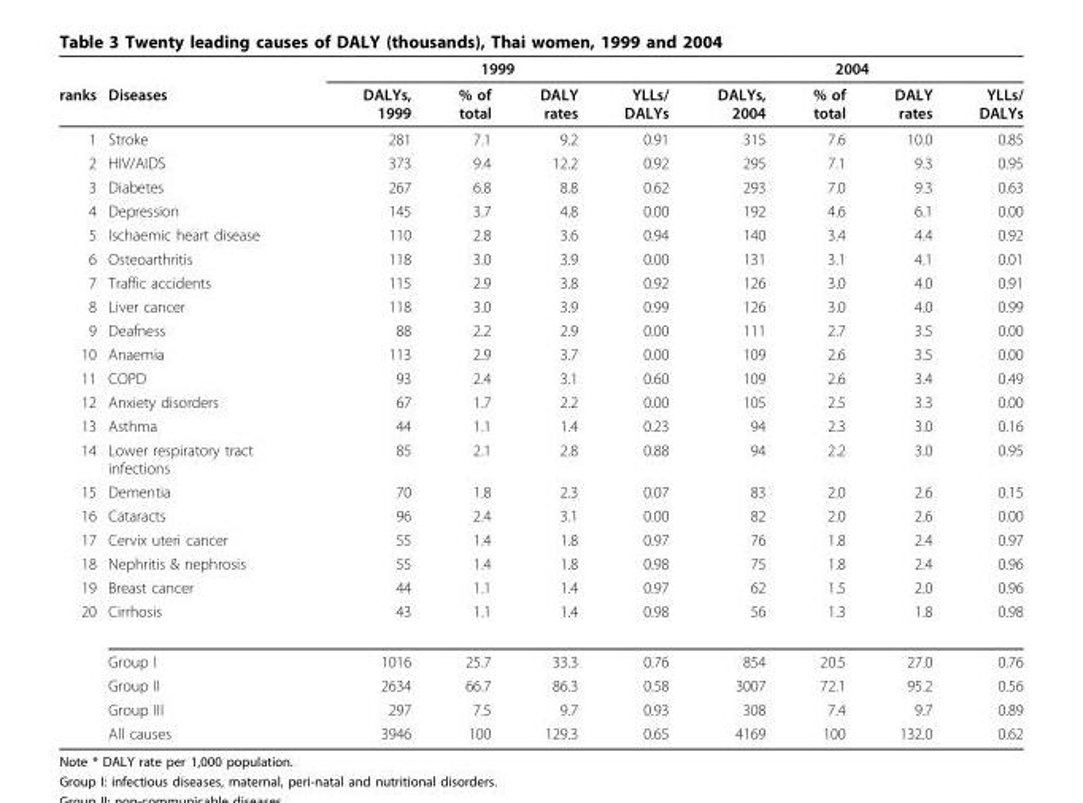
<table><thead><tr><td rowspan="2">ranks</td><td rowspan="2">Diseases</td><td colspan="4">1999</td><td colspan="4">2004</td></tr><tr><td>DALYs, 1999</td><td>% of total</td><td>DALY rates</td><td>YLLs/ DALYs</td><td>DALYs, 2004</td><td>% of total</td><td>DALY rates</td><td>YLLs/ DALYs</td></tr></thead><tbody><tr><td>1</td><td>Stroke</td><td>281</td><td>7.1</td><td>9.2</td><td>0.91</td><td>315</td><td>7.6</td><td>10.0</td><td>0.85</td></tr><tr><td>2</td><td>HIV/AIDS</td><td>373</td><td>9.4</td><td>12.2</td><td>0.92</td><td>295</td><td>7.1</td><td>9.3</td><td>0.95</td></tr><tr><td>3</td><td>Diabetes</td><td>267</td><td>6.8</td><td>8.8</td><td>0.62</td><td>293</td><td>7.0</td><td>9.3</td><td>0.63</td></tr><tr><td>4</td><td>Depression</td><td>145</td><td>3.7</td><td>4.8</td><td>0.00</td><td>192</td><td>4.6</td><td>6.1</td><td>0.00</td></tr><tr><td>5</td><td>Ischaemic heart disease</td><td>110</td><td>2.8</td><td>3.6</td><td>0.94</td><td>140</td><td>3.4</td><td>4.4</td><td>0.92</td></tr><tr><td>6</td><td>Osteoarthritis</td><td>118</td><td>3.0</td><td>3.9</td><td>0.00</td><td>131</td><td>3.1</td><td>4.1</td><td>0.01</td></tr><tr><td>7</td><td>Traffic accidents</td><td>115</td><td>2.9</td><td>3.8</td><td>0.92</td><td>126</td><td>3.0</td><td>4.0</td><td>0.91</td></tr><tr><td>8</td><td>Liver cancer</td><td>118</td><td>3.0</td><td>3.9</td><td>0.99</td><td>126</td><td>3.0</td><td>4.0</td><td>0.99</td></tr><tr><td>9</td><td>Deafness</td><td>88</td><td>2.2</td><td>2.9</td><td>0.00</td><td>111</td><td>2.7</td><td>3.5</td><td>0.00</td></tr><tr><td>10</td><td>Anaemia</td><td>113</td><td>2.9</td><td>3.7</td><td>0.00</td><td>109</td><td>2.6</td><td>3.5</td><td>0.00</td></tr><tr><td>11</td><td>COPD</td><td>93</td><td>2.4</td><td>3.1</td><td>0.60</td><td>109</td><td>2.6</td><td>3.4</td><td>0.49</td></tr><tr><td>12</td><td>Anxiety disorders</td><td>67</td><td>1.7</td><td>2.2</td><td>0.00</td><td>105</td><td>2.5</td><td>3.3</td><td>0.00</td></tr><tr><td>13</td><td>Asthma</td><td>44</td><td>1.1</td><td>1.4</td><td>0.23</td><td>94</td><td>2.3</td><td>3.0</td><td>0.16</td></tr><tr><td>14</td><td>Lower respiratory tract infections</td><td>85</td><td>2.1</td><td>2.8</td><td>0.88</td><td>94</td><td>2.2</td><td>3.0</td><td>0.95</td></tr><tr><td>15</td><td>Dementia</td><td>70</td><td>1.8</td><td>2.3</td><td>0.07</td><td>83</td><td>2.0</td><td>2.6</td><td>0.15</td></tr><tr><td>16</td><td>Cataracts</td><td>96</td><td>2.4</td><td>3.1</td><td>0.00</td><td>82</td><td>2.0</td><td>2.6</td><td>0.00</td></tr><tr><td>17</td><td>Cervix uteri cancer</td><td>55</td><td>1.4</td><td>1.8</td><td>0.97</td><td>76</td><td>1.8</td><td>2.4</td><td>0.97</td></tr><tr><td>18</td><td>Nephritis &amp; nephrosis</td><td>55</td><td>1.4</td><td>1.8</td><td>0.98</td><td>75</td><td>1.8</td><td>2.4</td><td>0.96</td></tr><tr><td>19</td><td>Breast cancer</td><td>44</td><td>1.1</td><td>1.4</td><td>0.97</td><td>62</td><td>1.5</td><td>2.0</td><td>0.96</td></tr><tr><td rowspan="5">20</td><td>Cirrhosis</td><td>43</td><td>1.1</td><td>1.4</td><td>0.98</td><td>56</td><td>1.3</td><td>1.8</td><td>0.98</td></tr><tr><td>Group I</td><td>1016</td><td>25.7</td><td>33.3</td><td>0.76</td><td>854</td><td>20.5</td><td>27.0</td><td>0.76</td></tr><tr><td>Group II</td><td>2634</td><td>66.7</td><td>86.3</td><td>0.58</td><td>3007</td><td>72.1</td><td>95.2</td><td>0.56</td></tr><tr><td>Group III</td><td>297</td><td>7.5</td><td>9.7</td><td>0.93</td><td>308</td><td>7.4</td><td>9.7</td><td>0.89</td></tr><tr><td>All causes</td><td>3946</td><td>100</td><td>129.3</td><td>0.65</td><td>4169</td><td>100</td><td>132.0</td><td>0.62</td></tr></tbody></table>